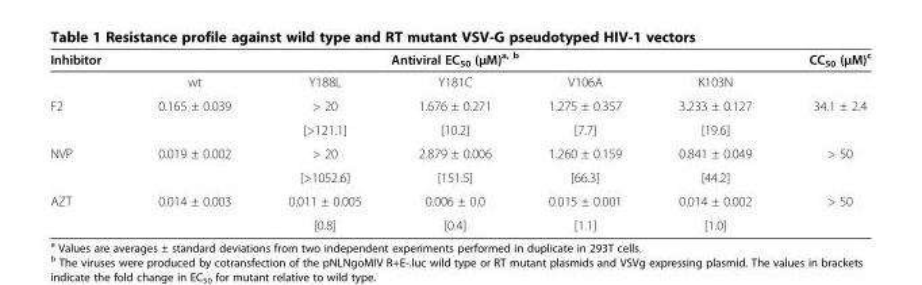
<table><thead><tr><td rowspan="2">Inhibitor</td><td colspan="5">Antiviral EC<sub>50</sub> (μM)<sup>a, b</sup></td><td rowspan="2">CC<sub>50</sub> (μM)<sup>c</sup></td></tr><tr><td>wt</td><td>Y188L</td><td>Y181C</td><td>V106A</td><td>K103N</td></tr></thead><tbody><tr><td rowspan="2">F2</td><td>0.165 ± 0.039</td><td>&gt; 20</td><td>1.676 ± 0.271</td><td>1.275 ± 0.357</td><td>3.233 ± 0.127</td><td>34.1 ± 2.4</td></tr><tr><td></td><td>[&gt;121.1]</td><td>[10.2]</td><td>[7.7]</td><td>[19.6]</td><td></td></tr><tr><td rowspan="2">NVP</td><td>0.019 ± 0.002</td><td>&gt; 20</td><td>2.879 ± 0.006</td><td>1.260 ± 0.159</td><td>0.841 ± 0.049</td><td>&gt; 50</td></tr><tr><td></td><td>[&gt;1052.6]</td><td>[151.5]</td><td>[66.3]</td><td>[44.2]</td><td></td></tr><tr><td rowspan="2">AZT</td><td>0.014 ± 0.003</td><td>0.011 ± 0.005</td><td>0.006 ± 0.0</td><td>0.015 ± 0.001</td><td>0.014 ± 0.002</td><td>&gt; 50</td></tr><tr><td></td><td>[0.8]</td><td>[0.4]</td><td>[1.1]</td><td>[1.0]</td><td></td></tr></tbody></table>